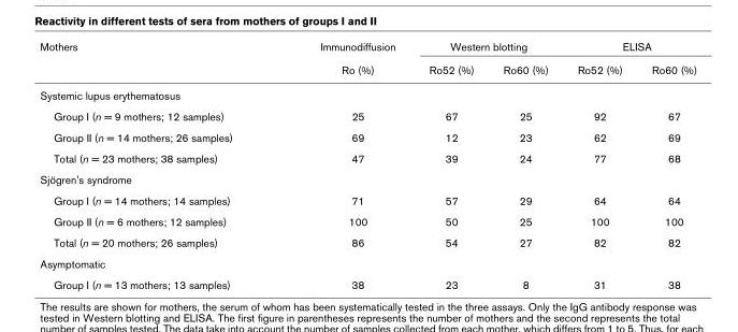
<table><thead><tr><td rowspan="2">Mothers</td><td rowspan="2">Immunodiffusion Ro (%)</td><td colspan="2">Western blotting</td><td colspan="2">ELISA</td></tr><tr><td>Ro52 (%)</td><td>Ro60 (%)</td><td>Ro52 (%)</td><td>Ro60 (%)</td></tr></thead><tbody><tr><td colspan="6">Systemic lupus erythematosus</td></tr><tr><td>Group I (n = 9 mothers; 12 samples)</td><td>25</td><td>67</td><td>25</td><td>92</td><td>67</td></tr><tr><td>Group II (n = 14 mothers; 26 samples)</td><td>69</td><td>12</td><td>23</td><td>62</td><td>69</td></tr><tr><td>Total (n = 23 mothers; 38 samples)</td><td>47</td><td>39</td><td>24</td><td>77</td><td>68</td></tr><tr><td colspan="6">Sjögren&#x27;s syndrome</td></tr><tr><td>Group I (n = 14 mothers; 14 samples)</td><td>71</td><td>57</td><td>29</td><td>64</td><td>64</td></tr><tr><td>Group II (n = 6 mothers; 12 samples)</td><td>100</td><td>50</td><td>25</td><td>100</td><td>100</td></tr><tr><td>Total (n = 20 mothers; 26 samples)</td><td>86</td><td>54</td><td>27</td><td>82</td><td>82</td></tr><tr><td colspan="6">Asymptomatic</td></tr><tr><td>Group I (n = 13 mothers; 13 samples)</td><td>38</td><td>23</td><td>8</td><td>31</td><td>38</td></tr></tbody></table>